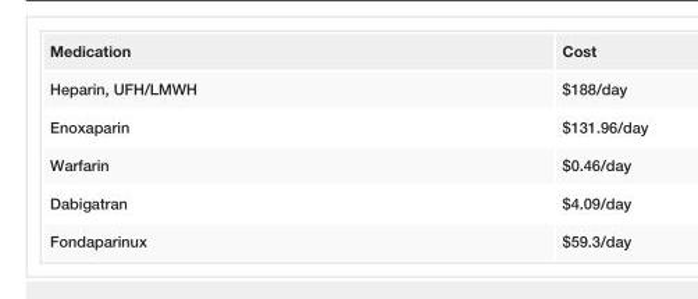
<table><tbody><tr><td>Medication</td><td>Cost</td></tr><tr><td>Heparin, UFH/LMWH</td><td>$188/day</td></tr><tr><td>Enoxaparin</td><td>$131.96/day</td></tr><tr><td>Warfarin</td><td>$0.46/day</td></tr><tr><td>Dabigatran</td><td>$4.09/day</td></tr><tr><td>Fondaparinux</td><td>$59.3/day</td></tr></tbody></table>